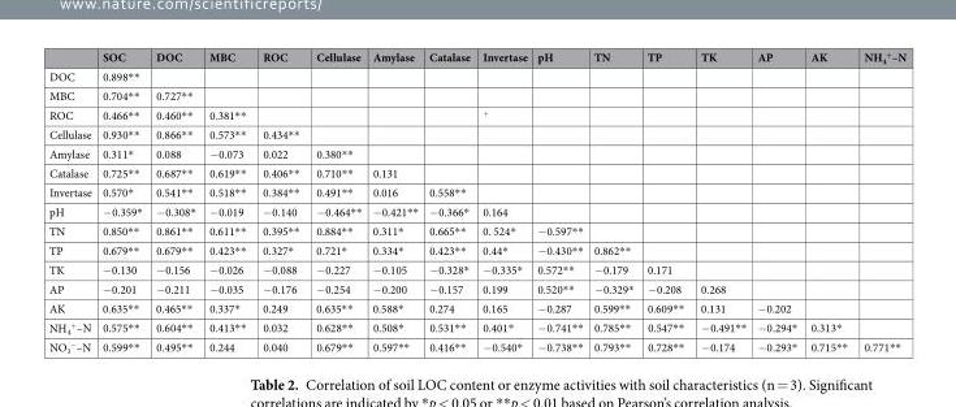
<table><thead><tr><td></td><td>SOC</td><td>DOC</td><td>MBC</td><td>ROC</td><td>Cellulase</td><td>Amylase</td><td>Catalase</td><td>Invertase</td><td>pH</td><td>TN</td><td>TP</td><td>TK</td><td>AP</td><td>AK</td><td>NH<sub>4</sub> <sup>+</sup>–N</td></tr></thead><tbody><tr><td>DOC</td><td>0.898**</td><td></td><td></td><td></td><td></td><td></td><td></td><td></td><td></td><td></td><td></td><td></td><td></td><td></td><td></td></tr><tr><td>MBC</td><td>0.704**</td><td>0.727**</td><td></td><td></td><td></td><td></td><td></td><td></td><td></td><td></td><td></td><td></td><td></td><td></td><td></td></tr><tr><td>ROC</td><td>0.466**</td><td>0.460**</td><td>0.381**</td><td></td><td></td><td></td><td></td><td><sup>+</sup></td><td></td><td></td><td></td><td></td><td></td><td></td><td></td></tr><tr><td>Cellulase</td><td>0.930**</td><td>0.866**</td><td>0.573**</td><td>0.434**</td><td></td><td></td><td></td><td></td><td></td><td></td><td></td><td></td><td></td><td></td><td></td></tr><tr><td>Amylase</td><td>0.311*</td><td>0.088</td><td>−0.073</td><td>0.022</td><td>0.380**</td><td></td><td></td><td></td><td></td><td></td><td></td><td></td><td></td><td></td><td></td></tr><tr><td>Catalase</td><td>0.725**</td><td>0.687**</td><td>0.619**</td><td>0.406**</td><td>0.710**</td><td>0.131</td><td></td><td></td><td></td><td></td><td></td><td></td><td></td><td></td><td></td></tr><tr><td>Invertase</td><td>0.570*</td><td>0.541**</td><td>0.518**</td><td>0.384**</td><td>0.491**</td><td>0.016</td><td>0.558**</td><td></td><td></td><td></td><td></td><td></td><td></td><td></td><td></td></tr><tr><td>pH</td><td>−0.359*</td><td>−0.308*</td><td>−0.019</td><td>−0.140</td><td>−0.464**</td><td>−0.421**</td><td>−0.366*</td><td>0.164</td><td></td><td></td><td></td><td></td><td></td><td></td><td></td></tr><tr><td>TN</td><td>0.850**</td><td>0.861**</td><td>0.611**</td><td>0.395**</td><td>0.884**</td><td>0.311*</td><td>0.665**</td><td>0. 524*</td><td>−0.597**</td><td></td><td></td><td></td><td></td><td></td><td></td></tr><tr><td>TP</td><td>0.679**</td><td>0.679**</td><td>0.423**</td><td>0.327*</td><td>0.721*</td><td>0.334*</td><td>0.423**</td><td>0.44*</td><td>−0.430**</td><td>0.862**</td><td></td><td></td><td></td><td></td><td></td></tr><tr><td>TK</td><td>−0.130</td><td>−0.156</td><td>−0.026</td><td>−0.088</td><td>−0.227</td><td>−0.105</td><td>−0.328*</td><td>−0.335*</td><td>0.572**</td><td>−0.179</td><td>0.171</td><td></td><td></td><td></td><td></td></tr><tr><td>AP</td><td>−0.201</td><td>−0.211</td><td>−0.035</td><td>−0.176</td><td>−0.254</td><td>−0.200</td><td>−0.157</td><td>0.199</td><td>0.520**</td><td>−0.329*</td><td>−0.208</td><td>0.268</td><td></td><td></td><td></td></tr><tr><td>AK</td><td>0.635**</td><td>0.465**</td><td>0.337*</td><td>0.249</td><td>0.635**</td><td>0.588*</td><td>0.274</td><td>0.165</td><td>−0.287</td><td>0.599**</td><td>0.609**</td><td>0.131</td><td>−0.202</td><td></td><td></td></tr><tr><td>NH<sub>4</sub> <sup>+</sup>–N</td><td>0.575**</td><td>0.604**</td><td>0.413**</td><td>0.032</td><td>0.628**</td><td>0.508*</td><td>0.531**</td><td>0.401*</td><td>−0.741**</td><td>0.785**</td><td>0.547**</td><td>−0.491**</td><td>−0.294*</td><td>0.313*</td><td></td></tr><tr><td>NO<sub>3</sub> <sup>−</sup>–N</td><td>0.599**</td><td>0.495**</td><td>0.244</td><td>0.040</td><td>0.679**</td><td>0.597**</td><td>0.416**</td><td>−0.540*</td><td>−0.738**</td><td>0.793**</td><td>0.728**</td><td>−0.174</td><td>−0.293*</td><td>0.715**</td><td>0.771**</td></tr></tbody></table>